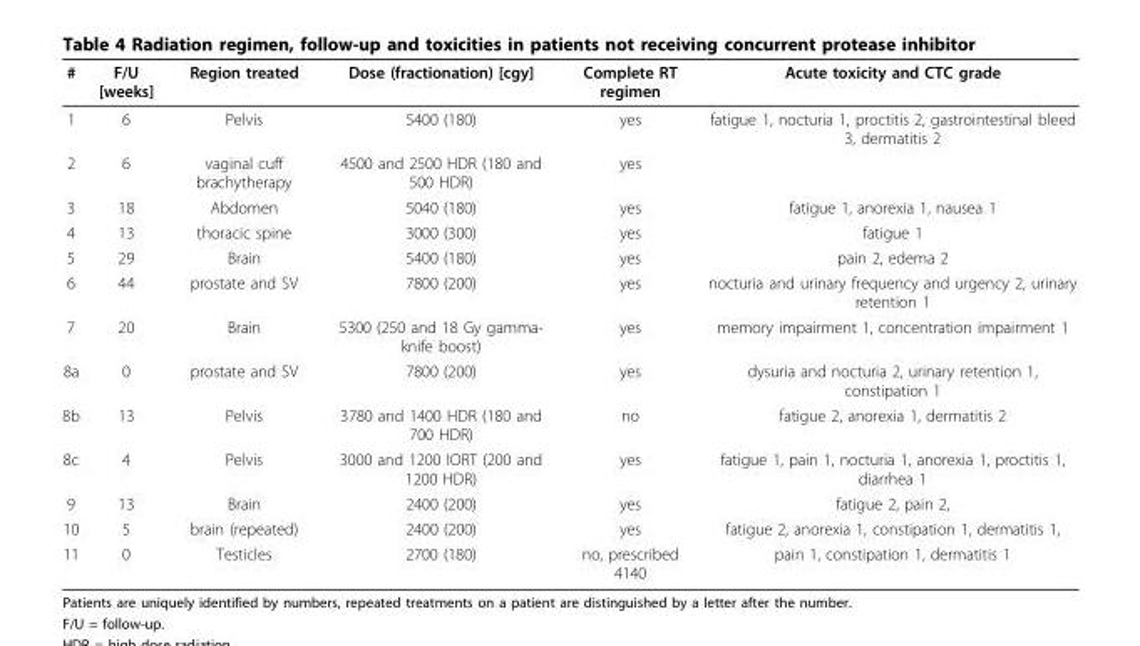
<table><thead><tr><td>#</td><td>F/U [weeks]</td><td>Region treated</td><td>Dose (fractionation) [cgy]</td><td>Complete RT regimen</td><td>Acute toxicity and CTC grade</td></tr></thead><tbody><tr><td>1</td><td>6</td><td>Pelvis</td><td>5400 (180)</td><td>yes</td><td>fatigue 1, nocturia 1, proctitis 2, gastrointestinal bleed 3, dermatitis 2</td></tr><tr><td>2</td><td>6</td><td>vaginal cuff brachytherapy</td><td>4500 and 2500 HDR (180 and 500 HDR)</td><td>yes</td><td></td></tr><tr><td>3</td><td>18</td><td>Abdomen</td><td>5040 (180)</td><td>yes</td><td>fatigue 1, anorexia 1, nausea 1</td></tr><tr><td>4</td><td>13</td><td>thoracic spine</td><td>3000 (300)</td><td>yes</td><td>fatigue 1</td></tr><tr><td>5</td><td>29</td><td>Brain</td><td>5400 (180)</td><td>yes</td><td>pain 2, edema 2</td></tr><tr><td>6</td><td>44</td><td>prostate and SV</td><td>7800 (200)</td><td>yes</td><td>nocturia and urinary frequency and urgency 2, urinary retention 1</td></tr><tr><td>7</td><td>20</td><td>Brain</td><td>5300 (250 and 18 Gy gamma- knife boost)</td><td>yes</td><td>memory impairment 1, concentration impairment 1</td></tr><tr><td>8a</td><td>0</td><td>prostate and SV</td><td>7800 (200)</td><td>yes</td><td>dysuria and nocturia 2, urinary retention 1, constipation 1</td></tr><tr><td>8b</td><td>13</td><td>Pelvis</td><td>3780 and 1400 HDR (180 and 700 HDR)</td><td>no</td><td>fatigue 2, anorexia 1, dermatitis 2</td></tr><tr><td>8c</td><td>4</td><td>Pelvis</td><td>3000 and 1200 IORT (200 and 1200 HDR)</td><td>yes</td><td>fatigue 1, pain 1, nocturia 1, anorexia 1, proctitis 1, diarrhea 1</td></tr><tr><td>9</td><td>13</td><td>Brain</td><td>2400 (200)</td><td>yes</td><td>fatigue 2, pain 2,</td></tr><tr><td>10</td><td>5</td><td>brain (repeated)</td><td>2400 (200)</td><td>yes</td><td>fatigue 2, anorexia 1, constipation 1, dermatitis 1,</td></tr><tr><td>11</td><td>0</td><td>Testicles</td><td>2700 (180)</td><td>no, prescribed 4140</td><td>pain 1, constipation 1, dermatitis 1</td></tr></tbody></table>